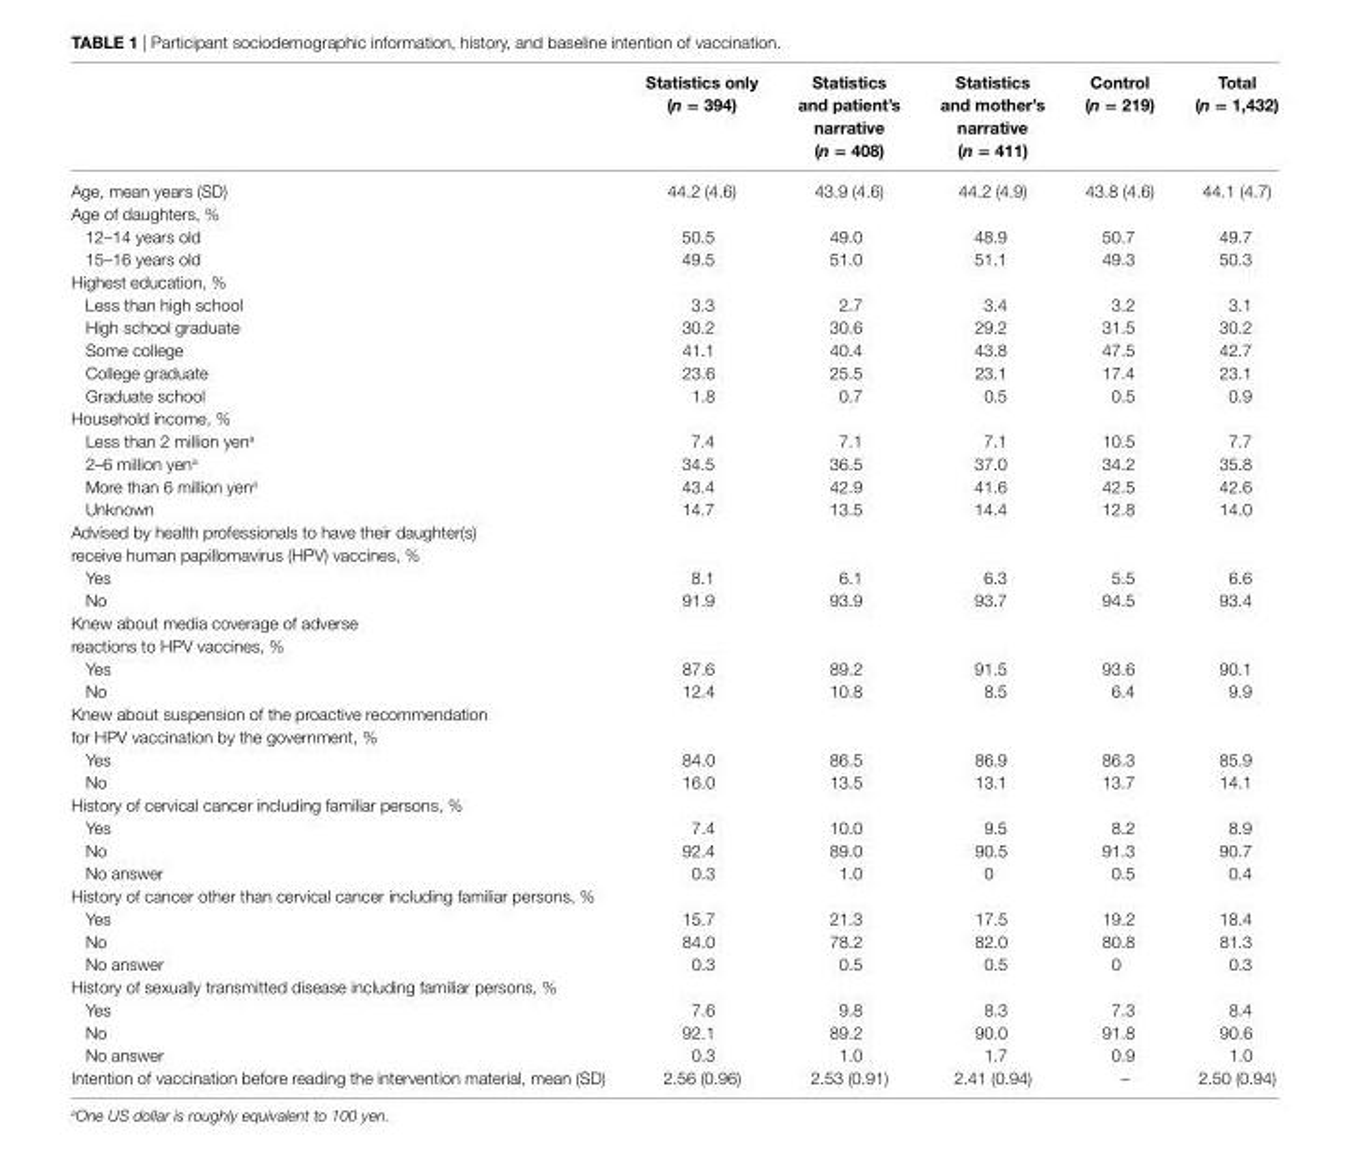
<table><thead><tr><td></td><td>statistics only (n = 394)</td><td>statistics and patient’s narrative (n = 408)</td><td>statistics and mother’s narrative (n = 411)</td><td>control (n = 219)</td><td>Total (n = 1,432)</td></tr></thead><tbody><tr><td>Age, mean years (SD)</td><td>44.2 (4.6)</td><td>43.9 (4.6)</td><td>44.2 (4.9)</td><td>43.8 (4.6)</td><td>44.1 (4.7)</td></tr><tr><td colspan="6">Age of daughters, %</td></tr><tr><td>12–14 years old</td><td>50.5</td><td>49.0</td><td>48.9</td><td>50.7</td><td>49.7</td></tr><tr><td>15–16 years old</td><td>49.5</td><td>51.0</td><td>51.1</td><td>49.3</td><td>50.3</td></tr><tr><td colspan="6">Highest education, %</td></tr><tr><td>Less than high school</td><td>3.3</td><td>2.7</td><td>3.4</td><td>3.2</td><td>3.1</td></tr><tr><td>High school graduate</td><td>30.2</td><td>30.6</td><td>29.2</td><td>31.5</td><td>30.2</td></tr><tr><td>Some college</td><td>41.1</td><td>40.4</td><td>43.8</td><td>47.5</td><td>42.7</td></tr><tr><td>College graduate</td><td>23.6</td><td>25.5</td><td>23.1</td><td>17.4</td><td>23.1</td></tr><tr><td>Graduate school</td><td>1.8</td><td>0.7</td><td>0.5</td><td>0.5</td><td>0.9</td></tr><tr><td colspan="6">Household income, %</td></tr><tr><td>Less than 2 million yen<sup>a</sup></td><td>7.4</td><td>7.1</td><td>7.1</td><td>10.5</td><td>7.7</td></tr><tr><td>2–6 million yen<sup>a</sup></td><td>34.5</td><td>36.5</td><td>37.0</td><td>34.2</td><td>35.8</td></tr><tr><td>More than 6 million yen<sup>a</sup></td><td>43.4</td><td>42.9</td><td>41.6</td><td>42.5</td><td>42.6</td></tr><tr><td>Unknown</td><td>14.7</td><td>13.5</td><td>14.4</td><td>12.8</td><td>14.0</td></tr><tr><td colspan="6">Advised by health professionals to have their daughter(s) receive human papillomavirus (HPV) vaccines, %</td></tr><tr><td>Yes</td><td>8.1</td><td>6.1</td><td>6.3</td><td>5.5</td><td>6.6</td></tr><tr><td>No</td><td>91.9</td><td>93.9</td><td>93.7</td><td>94.5</td><td>93.4</td></tr><tr><td colspan="6">Knew about media coverage of adverse reactions to HPV vaccines, %</td></tr><tr><td>Yes</td><td>87.6</td><td>89.2</td><td>91.5</td><td>93.6</td><td>90.1</td></tr><tr><td>No</td><td>12.4</td><td>10.8</td><td>8.5</td><td>6.4</td><td>9.9</td></tr><tr><td colspan="6">Knew about suspension of the proactive recommendation for HPV vaccination by the government, %</td></tr><tr><td>Yes</td><td>84.0</td><td>86.5</td><td>86.9</td><td>86.3</td><td>85.9</td></tr><tr><td>No</td><td>16.0</td><td>13.5</td><td>13.1</td><td>13.7</td><td>14.1</td></tr><tr><td colspan="6">History of cervical cancer including familiar persons, %</td></tr><tr><td>Yes</td><td>7.4</td><td>10.0</td><td>9.5</td><td>8.2</td><td>8.9</td></tr><tr><td>No</td><td>92.4</td><td>89.0</td><td>90.5</td><td>91.3</td><td>90.7</td></tr><tr><td>No answer</td><td>0.3</td><td>1.0</td><td>0</td><td>0.5</td><td>0.4</td></tr><tr><td colspan="6">History of cancer other than cervical cancer including familiar persons, %</td></tr><tr><td>Yes</td><td>15.7</td><td>21.3</td><td>17.5</td><td>19.2</td><td>18.4</td></tr><tr><td>No</td><td>84.0</td><td>78.2</td><td>82.0</td><td>80.8</td><td>81.3</td></tr><tr><td>No answer</td><td>0.3</td><td>0.5</td><td>0.5</td><td>0</td><td>0.3</td></tr><tr><td colspan="6">History of sexually transmitted disease including familiar persons, %</td></tr><tr><td>Yes</td><td>7.6</td><td>9.8</td><td>8.3</td><td>7.3</td><td>8.4</td></tr><tr><td>No</td><td>92.1</td><td>89.2</td><td>90.0</td><td>91.8</td><td>90.6</td></tr><tr><td>No answer</td><td>0.3</td><td>1.0</td><td>1.7</td><td>0.9</td><td>1.0</td></tr><tr><td>Intention of vaccination before reading the intervention material, mean (SD)</td><td>2.56 (0.96)</td><td>2.53 (0.91)</td><td>2.41 (0.94)</td><td>–</td><td>2.50 (0.94)</td></tr></tbody></table>